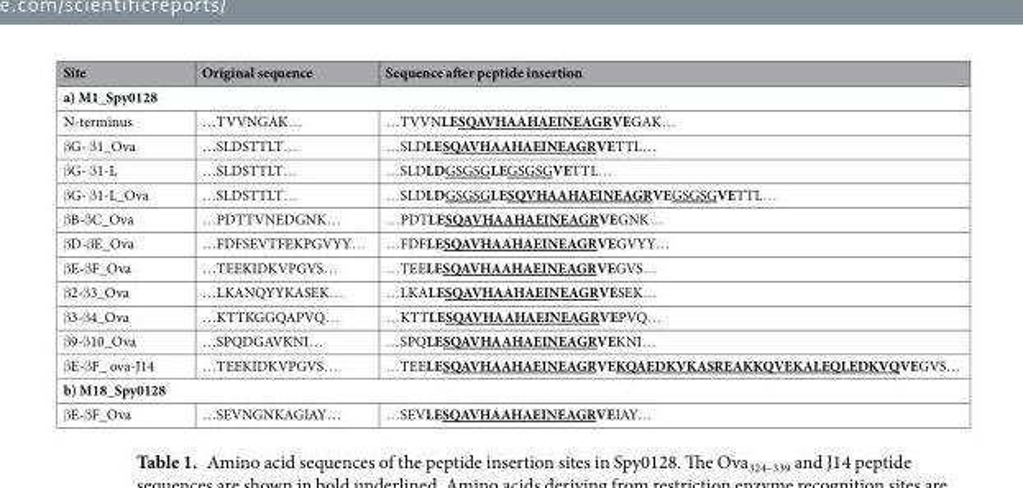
<table><thead><tr><td>Site</td><td>Original sequence</td><td>Sequence after peptide insertion</td></tr></thead><tbody><tr><td colspan="3">a) M1_Spy0128</td></tr><tr><td>N-terminus</td><td>…TVVNGAK…</td><td>…TVVNLESQAVHAAHAEINEAGRVEGAK…</td></tr><tr><td>βG- β1_Ova</td><td>…SLDSTTLT…</td><td>…SLDLESQAVHAAHAEINEAGRVETTL…</td></tr><tr><td>βG- β1-L</td><td>…SLDSTTLT…</td><td>…SLDLDGSGSGLEGSGSGVETTL…</td></tr><tr><td>βG- β1-L_Ova</td><td>…SLDSTTLT…</td><td>…SLDLDGSGSGLESQVHAAHAEINEAGRVEGSGSGVETTL…</td></tr><tr><td>βB-βC_Ova</td><td>…PDTTVNEDGNK…</td><td>…PDTLESQAVHAAHAEINEAGRVEGNK…</td></tr><tr><td>βD-βE_Ova</td><td>…FDFSEVTFEKPGVYY…</td><td>…FDFLESQAVHAAHAEINEAGRVEGVYY…</td></tr><tr><td>βE-βF_Ova</td><td>…TEEKIDKVPGVS…</td><td>…TEELESQAVHAAHAEINEAGRVEGVS…</td></tr><tr><td>β2-β3_Ova</td><td>…LKANQYYKASEK…</td><td>…LKALESQAVHAAHAEINEAGRVESEK…</td></tr><tr><td>β3-β4_Ova</td><td>…KTTKGGQAPVQ…</td><td>…KTTLESQAVHAAHAEINEAGRVEPVQ…</td></tr><tr><td>β9-β10_Ova</td><td>…SPQDGAVKNI…</td><td>…SPQLESQAVHAAHAEINEAGRVEKNI…</td></tr><tr><td>βE-βF_ ova-J14</td><td>…TEEKIDKVPGVS…</td><td>…TEELESQAVHAAHAEINEAGRVEKQAEDKVKASREAKKQVEKALEQLEDKVQVEGVS…</td></tr><tr><td colspan="3">b) M18_Spy0128</td></tr><tr><td>βE-βF_Ova</td><td>…SEVNGNKAGIAY…</td><td>…SEVLESQAVHAAHAEINEAGRVEIAY…</td></tr></tbody></table>